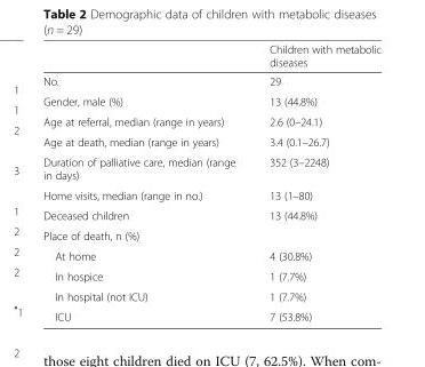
<table><thead><tr><td></td><td>Children with metabolic diseases</td></tr></thead><tbody><tr><td>No.</td><td>29</td></tr><tr><td>Gender, male (%)</td><td>13 (44.8%)</td></tr><tr><td>Age at referral, median (range in years)</td><td>2.6 (0–24.1)</td></tr><tr><td>Age at death, median (range in years)</td><td>3.4 (0.1–26.7)</td></tr><tr><td>Duration of palliative care, median (range in days)</td><td>352 (3–2248)</td></tr><tr><td>Home visits, median (range in no.)</td><td>13 (1–80)</td></tr><tr><td>Deceased children</td><td>13 (44.8%)</td></tr><tr><td colspan="2">Place of death, n (%)</td></tr><tr><td>At home</td><td>4 (30.8%)</td></tr><tr><td>In hospice</td><td>1 (7.7%)</td></tr><tr><td>In hospital (not ICU)</td><td>1 (7.7%)</td></tr><tr><td>ICU</td><td>7 (53.8%)</td></tr></tbody></table>